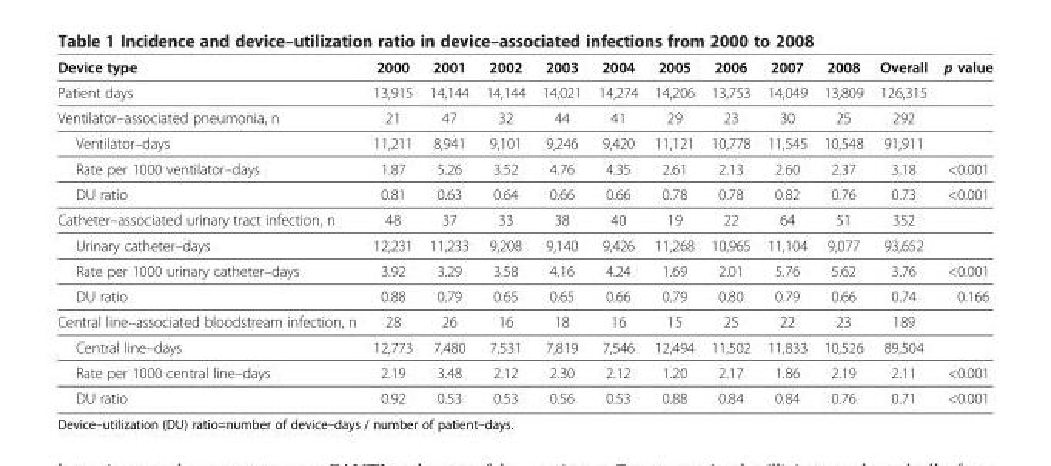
<table><thead><tr><td>Device type</td><td>2000</td><td>2001</td><td>2002</td><td>2003</td><td>2004</td><td>2005</td><td>2006</td><td>2007</td><td>2008</td><td>Overall</td><td>p value</td></tr></thead><tbody><tr><td>Patient days</td><td>13,915</td><td>14,144</td><td>14,144</td><td>14,021</td><td>14,274</td><td>14,206</td><td>13,753</td><td>14,049</td><td>13,809</td><td>126,315</td><td></td></tr><tr><td>Ventilator–associated pneumonia, n</td><td>21</td><td>47</td><td>32</td><td>44</td><td>41</td><td>29</td><td>23</td><td>30</td><td>25</td><td>292</td><td></td></tr><tr><td>Ventilator–days</td><td>11,211</td><td>8,941</td><td>9,101</td><td>9,246</td><td>9,420</td><td>11,121</td><td>10,778</td><td>11,545</td><td>10,548</td><td>91,911</td><td></td></tr><tr><td>Rate per 1000 ventilator–days</td><td>1.87</td><td>5.26</td><td>3.52</td><td>4.76</td><td>4.35</td><td>2.61</td><td>2.13</td><td>2.60</td><td>2.37</td><td>3.18</td><td>&lt;0.001</td></tr><tr><td>DU ratio</td><td>0.81</td><td>0.63</td><td>0.64</td><td>0.66</td><td>0.66</td><td>0.78</td><td>0.78</td><td>0.82</td><td>0.76</td><td>0.73</td><td>&lt;0.001</td></tr><tr><td>Catheter–associated urinary tract infection, n</td><td>48</td><td>37</td><td>33</td><td>38</td><td>40</td><td>19</td><td>22</td><td>64</td><td>51</td><td>352</td><td></td></tr><tr><td>Urinary catheter–days</td><td>12,231</td><td>11,233</td><td>9,208</td><td>9,140</td><td>9,426</td><td>11,268</td><td>10,965</td><td>11,104</td><td>9,077</td><td>93,652</td><td></td></tr><tr><td>Rate per 1000 urinary catheter–days</td><td>3.92</td><td>3.29</td><td>3.58</td><td>4.16</td><td>4.24</td><td>1.69</td><td>2.01</td><td>5.76</td><td>5.62</td><td>3.76</td><td>&lt;0.001</td></tr><tr><td>DU ratio</td><td>0.88</td><td>0.79</td><td>0.65</td><td>0.65</td><td>0.66</td><td>0.79</td><td>0.80</td><td>0.79</td><td>0.66</td><td>0.74</td><td>0.166</td></tr><tr><td>Central line–associated bloodstream infection, n</td><td>28</td><td>26</td><td>16</td><td>18</td><td>16</td><td>15</td><td>25</td><td>22</td><td>23</td><td>189</td><td></td></tr><tr><td>Central line–days</td><td>12,773</td><td>7,480</td><td>7,531</td><td>7,819</td><td>7,546</td><td>12,494</td><td>11,502</td><td>11,833</td><td>10,526</td><td>89,504</td><td></td></tr><tr><td>Rate per 1000 central line–days</td><td>2.19</td><td>3.48</td><td>2.12</td><td>2.30</td><td>2.12</td><td>1.20</td><td>2.17</td><td>1.86</td><td>2.19</td><td>2.11</td><td>&lt;0.001</td></tr><tr><td>DU ratio</td><td>0.92</td><td>0.53</td><td>0.53</td><td>0.56</td><td>0.53</td><td>0.88</td><td>0.84</td><td>0.84</td><td>0.76</td><td>0.71</td><td>&lt;0.001</td></tr></tbody></table>